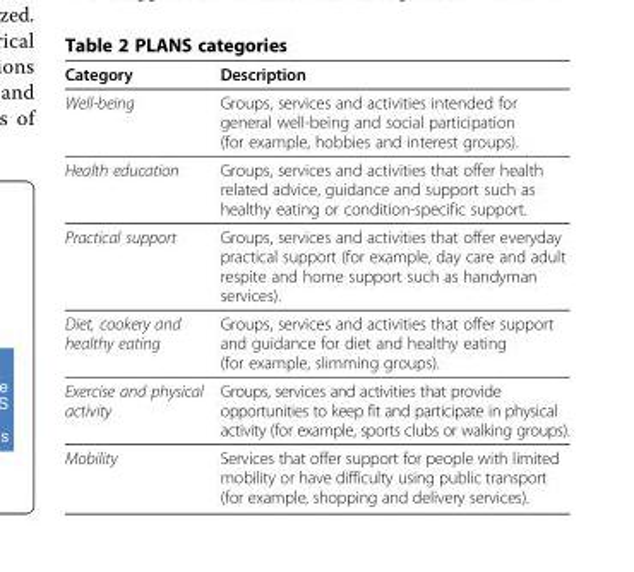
<table><thead><tr><td>Category</td><td>Description</td></tr></thead><tbody><tr><td>Well-being</td><td>Groups, services and activities intended for general well-being and social participation (for example, hobbies and interest groups).</td></tr><tr><td>Health education</td><td>Groups, services and activities that offer health related advice, guidance and support such as healthy eating or condition-specific support.</td></tr><tr><td>Practical support</td><td>Groups, services and activities that offer everyday practical support (for example, day care and adult respite and home support such as handyman services).</td></tr><tr><td>Diet, cookery and healthy eating</td><td>Groups, services and activities that offer support and guidance for diet and healthy eating (for example, slimming groups).</td></tr><tr><td>Exercise and physical activity</td><td>Groups, services and activities that provide opportunities to keep fit and participate in physical activity (for example, sports clubs or walking groups).</td></tr><tr><td>Mobility</td><td>Services that offer support for people with limited mobility or have difficulty using public transport (for example, shopping and delivery services).</td></tr></tbody></table>